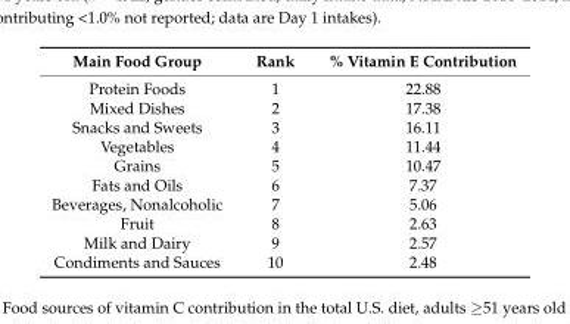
<table><thead><tr><td>Main Food Group</td><td>Rank</td><td>% Vitamin E Contribution</td></tr></thead><tbody><tr><td>Protein Foods</td><td>1</td><td>22.88</td></tr><tr><td>Mixed Dishes</td><td>2</td><td>17.38</td></tr><tr><td>Snacks and Sweets</td><td>3</td><td>16.11</td></tr><tr><td>Vegetables</td><td>4</td><td>11.44</td></tr><tr><td>Grains</td><td>5</td><td>10.47</td></tr><tr><td>Fats and Oils</td><td>6</td><td>7.37</td></tr><tr><td>Beverages, Nonalcoholic</td><td>7</td><td>5.06</td></tr><tr><td>Fruit</td><td>8</td><td>2.63</td></tr><tr><td>Milk and Dairy</td><td>9</td><td>2.57</td></tr><tr><td>Condiments and Sauces</td><td>10</td><td>2.48</td></tr></tbody></table>